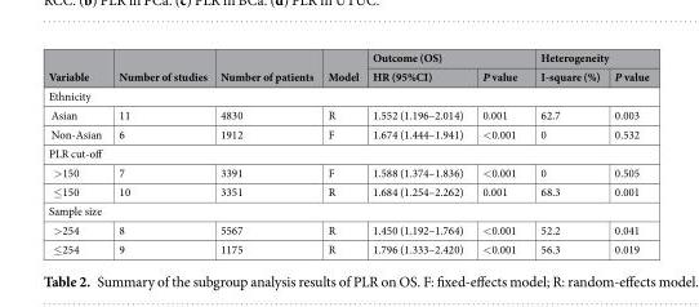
<table><thead><tr><td rowspan="2">Variable</td><td rowspan="2">Number of studies</td><td rowspan="2">Number of patients</td><td rowspan="2">Model</td><td colspan="2">Outcome (OS)</td><td colspan="2">Heterogeneity</td></tr><tr><td>HR (95%CI)</td><td>P value</td><td>I-square (%)</td><td>P value</td></tr></thead><tbody><tr><td colspan="8">Ethnicity</td></tr><tr><td>Asian</td><td>11</td><td>4830</td><td>R</td><td>1.552 (1.196–2.014)</td><td>0.001</td><td>62.7</td><td>0.003</td></tr><tr><td>Non-Asian</td><td>6</td><td>1912</td><td>F</td><td>1.674 (1.444–1.941)</td><td>&lt;0.001</td><td>0</td><td>0.532</td></tr><tr><td colspan="8">PLR cut-off</td></tr><tr><td>&gt;150</td><td>7</td><td>3391</td><td>F</td><td>1.588 (1.374–1.836)</td><td>&lt;0.001</td><td>0</td><td>0.505</td></tr><tr><td>≤150</td><td>10</td><td>3351</td><td>R</td><td>1.684 (1.254–2.262)</td><td>0.001</td><td>68.3</td><td>0.001</td></tr><tr><td colspan="8">Sample size</td></tr><tr><td>&gt;254</td><td>8</td><td>5567</td><td>R</td><td>1.450 (1.192–1.764)</td><td>&lt;0.001</td><td>52.2</td><td>0.041</td></tr><tr><td>≤254</td><td>9</td><td>1175</td><td>R</td><td>1.796 (1.333–2.420)</td><td>&lt;0.001</td><td>56.3</td><td>0.019</td></tr></tbody></table>